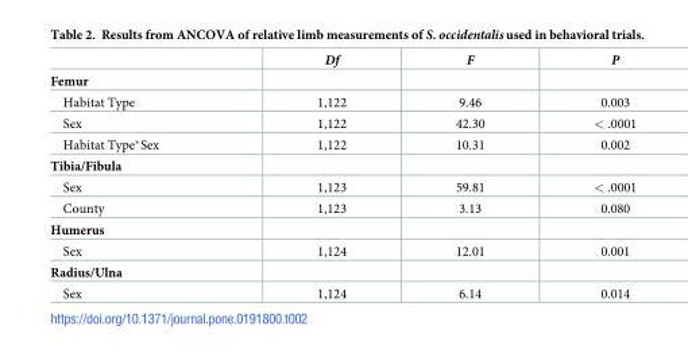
<table><thead><tr><td></td><td>Df</td><td>F</td><td>P</td></tr></thead><tbody><tr><td colspan="4">Femur</td></tr><tr><td>Habitat Type</td><td>1,122</td><td>9.46</td><td>0.003</td></tr><tr><td>Sex</td><td>1,122</td><td>42.30</td><td>&lt; .0001</td></tr><tr><td>Habitat Type*Sex</td><td>1,122</td><td>10.31</td><td>0.002</td></tr><tr><td colspan="4">Tibia/Fibula</td></tr><tr><td>Sex</td><td>1,123</td><td>59.81</td><td>&lt; .0001</td></tr><tr><td>County</td><td>1,123</td><td>3.13</td><td>0.080</td></tr><tr><td colspan="4">Humerus</td></tr><tr><td>Sex</td><td>1,124</td><td>12.01</td><td>0.001</td></tr><tr><td colspan="4">Radius/Ulna</td></tr><tr><td>Sex</td><td>1,124</td><td>6.14</td><td>0.014</td></tr></tbody></table>